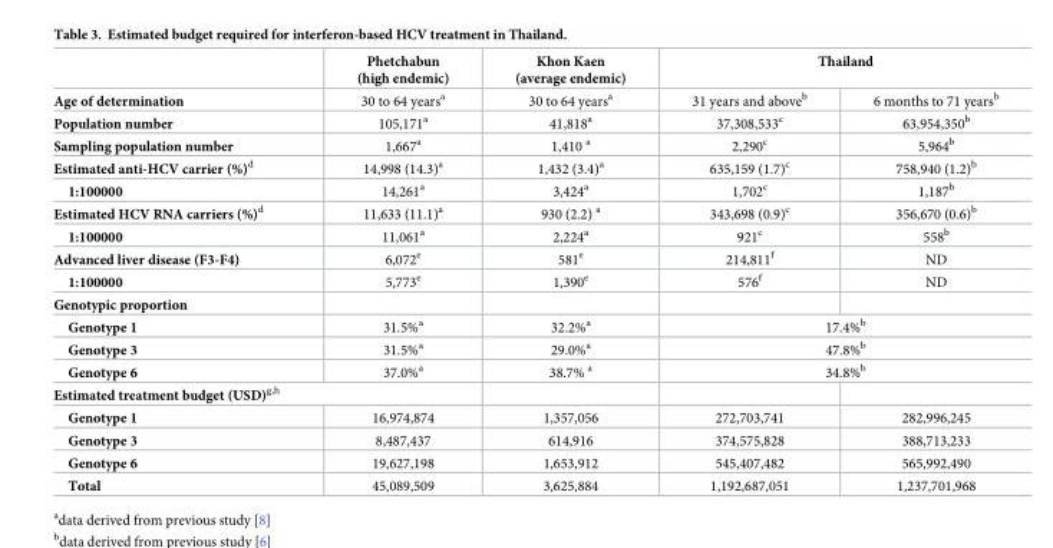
<table><thead><tr><td rowspan="2">Age of determination</td><td rowspan="2">Phetchabun (high endemic) 30 to 64 years<sup>a</sup></td><td rowspan="2">Khon Kaen (average endemic) 30 to 64 years<sup>a</sup></td><td colspan="2">Thailand</td></tr><tr><td>31 years and above<sup>b</sup></td><td>6 months to 71 years<sup>b</sup></td></tr></thead><tbody><tr><td>Population number</td><td>105,171<sup>a</sup></td><td>41,818<sup>a</sup></td><td>37,308,533<sup>c</sup></td><td>63,954,350<sup>b</sup></td></tr><tr><td>Sampling population number</td><td>1,667<sup>a</sup></td><td>1,410 <sup>a</sup></td><td>2,290<sup>c</sup></td><td>5,964<sup>b</sup></td></tr><tr><td>Estimated anti-HCV carrier (%)<sup>d</sup></td><td>14,998 (14.3)<sup>a</sup></td><td>1,432 (3.4)<sup>a</sup></td><td>635,159 (1.7)<sup>c</sup></td><td>758,940 (1.2)<sup>b</sup></td></tr><tr><td>1:100000</td><td>14,261<sup>a</sup></td><td>3,424<sup>a</sup></td><td>1,702<sup>c</sup></td><td>1,187<sup>b</sup></td></tr><tr><td>Estimated HCV RNA carriers (%)<sup>d</sup></td><td>11,633 (11.1)<sup>a</sup></td><td>930 (2.2) <sup>a</sup></td><td>343,698 (0.9)<sup>c</sup></td><td>356,670 (0.6)<sup>b</sup></td></tr><tr><td>1:100000</td><td>11,061<sup>a</sup></td><td>2,224<sup>a</sup></td><td>921<sup>c</sup></td><td>558<sup>b</sup></td></tr><tr><td>Advanced liver disease (F3-F4)</td><td>6,072<sup>e</sup></td><td>581<sup>e</sup></td><td>214,811<sup>f</sup></td><td>ND</td></tr><tr><td>1:100000</td><td>5,773<sup>e</sup></td><td>1,390<sup>e</sup></td><td>576<sup>f</sup></td><td>ND</td></tr><tr><td colspan="5">Genotypic proportion</td></tr><tr><td>Genotype 1</td><td>31.5%<sup>a</sup></td><td>32.2%<sup>a</sup></td><td colspan="2">17.4%<sup>b</sup></td></tr><tr><td>Genotype 3</td><td>31.5%<sup>a</sup></td><td>29.0%<sup>a</sup></td><td colspan="2">47.8%<sup>b</sup></td></tr><tr><td>Genotype 6</td><td>37.0%<sup>a</sup></td><td>38.7% <sup>a</sup></td><td colspan="2">34.8%<sup>b</sup></td></tr><tr><td colspan="5">Estimated treatment budget (USD)<sup>g,h</sup></td></tr><tr><td>Genotype 1</td><td>16,974,874</td><td>1,357,056</td><td>272,703,741</td><td>282,996,245</td></tr><tr><td>Genotype 3</td><td>8,487,437</td><td>614,916</td><td>374,575,828</td><td>388,713,233</td></tr><tr><td>Genotype 6</td><td>19,627,198</td><td>1,653,912</td><td>545,407,482</td><td>565,992,490</td></tr><tr><td>Total</td><td>45,089,509</td><td>3,625,884</td><td>1,192,687,051</td><td>1,237,701,968</td></tr></tbody></table>